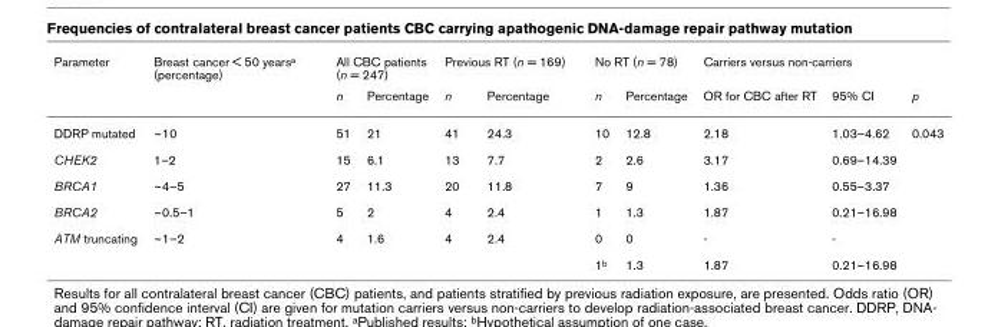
<table><thead><tr><td rowspan="2">Parameter</td><td rowspan="2">Breast cancer &lt; 50 yearsa (percentage)</td><td colspan="2">All CBC patients (n = 247)</td><td colspan="2">Previous RT (n = 169)</td><td colspan="2">No RT (n = 78)</td><td colspan="3">Carriers versus non-carriers</td></tr><tr><td>n</td><td>Percentage</td><td>n</td><td>Percentage</td><td>n</td><td>Percentage</td><td>OR for CBC after RT</td><td>95% CI</td><td>p</td></tr></thead><tbody><tr><td>DDRP mutated</td><td>~10</td><td>51</td><td>21</td><td>41</td><td>24.3</td><td>10</td><td>12.8</td><td>2.18</td><td>1.03–4.62</td><td>0.043</td></tr><tr><td>CHEK2</td><td>1–2</td><td>15</td><td>6.1</td><td>13</td><td>7.7</td><td>2</td><td>2.6</td><td>3.17</td><td>0.69–14.39</td><td></td></tr><tr><td>BRCA1</td><td>~4–5</td><td>27</td><td>11.3</td><td>20</td><td>11.8</td><td>7</td><td>9</td><td>1.36</td><td>0.55–3.37</td><td></td></tr><tr><td>BRCA2</td><td>~0.5–1</td><td>5</td><td>2</td><td>4</td><td>2.4</td><td>1</td><td>1.3</td><td>1.87</td><td>0.21–16.98</td><td></td></tr><tr><td rowspan="2">ATM truncating</td><td>~1–2</td><td>4</td><td>1.6</td><td>4</td><td>2.4</td><td>0</td><td>0</td><td>-</td><td>-</td><td></td></tr><tr><td></td><td></td><td></td><td></td><td></td><td>1b</td><td>1.3</td><td>1.87</td><td>0.21–16.98</td><td></td></tr></tbody></table>